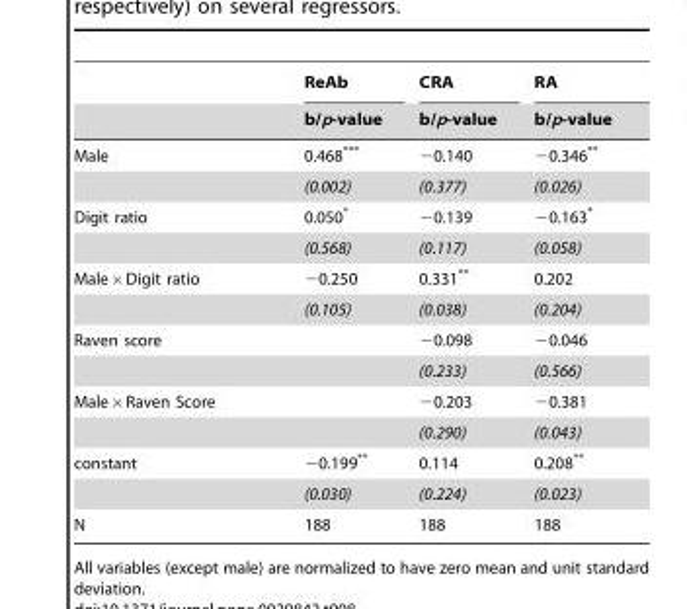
<table><thead><tr><td rowspan="2"></td><td rowspan="2">ReAb b/p-value</td><td rowspan="2">CRA b/p-value</td><td rowspan="2">RA b/p-value</td></tr><tr></tr></thead><tbody><tr><td rowspan="2">Male</td><td>0.468***</td><td>−0.140</td><td>−0.346**</td></tr><tr><td>(0.002)</td><td>(0.377)</td><td>(0.026)</td></tr><tr><td rowspan="2">Digit ratio</td><td>0.050*</td><td>−0.139</td><td>−0.163*</td></tr><tr><td>(0.568)</td><td>(0.117)</td><td>(0.058)</td></tr><tr><td rowspan="2">Male|Digit ratio</td><td>−0.250</td><td>0.331**</td><td>0.202</td></tr><tr><td>(0.105)</td><td>(0.038)</td><td>(0.204)</td></tr><tr><td rowspan="2">Raven score</td><td></td><td>−0.098</td><td>−0.046</td></tr><tr><td></td><td>(0.233)</td><td>(0.566)</td></tr><tr><td rowspan="2">Male|Raven Score</td><td></td><td>−0.203</td><td>−0.381</td></tr><tr><td></td><td>(0.290)</td><td>(0.043)</td></tr><tr><td rowspan="2">constant</td><td>−0.199**</td><td>0.114</td><td>0.208**</td></tr><tr><td>(0.030)</td><td>(0.224)</td><td>(0.023)</td></tr><tr><td>N</td><td>188</td><td>188</td><td>188</td></tr></tbody></table>